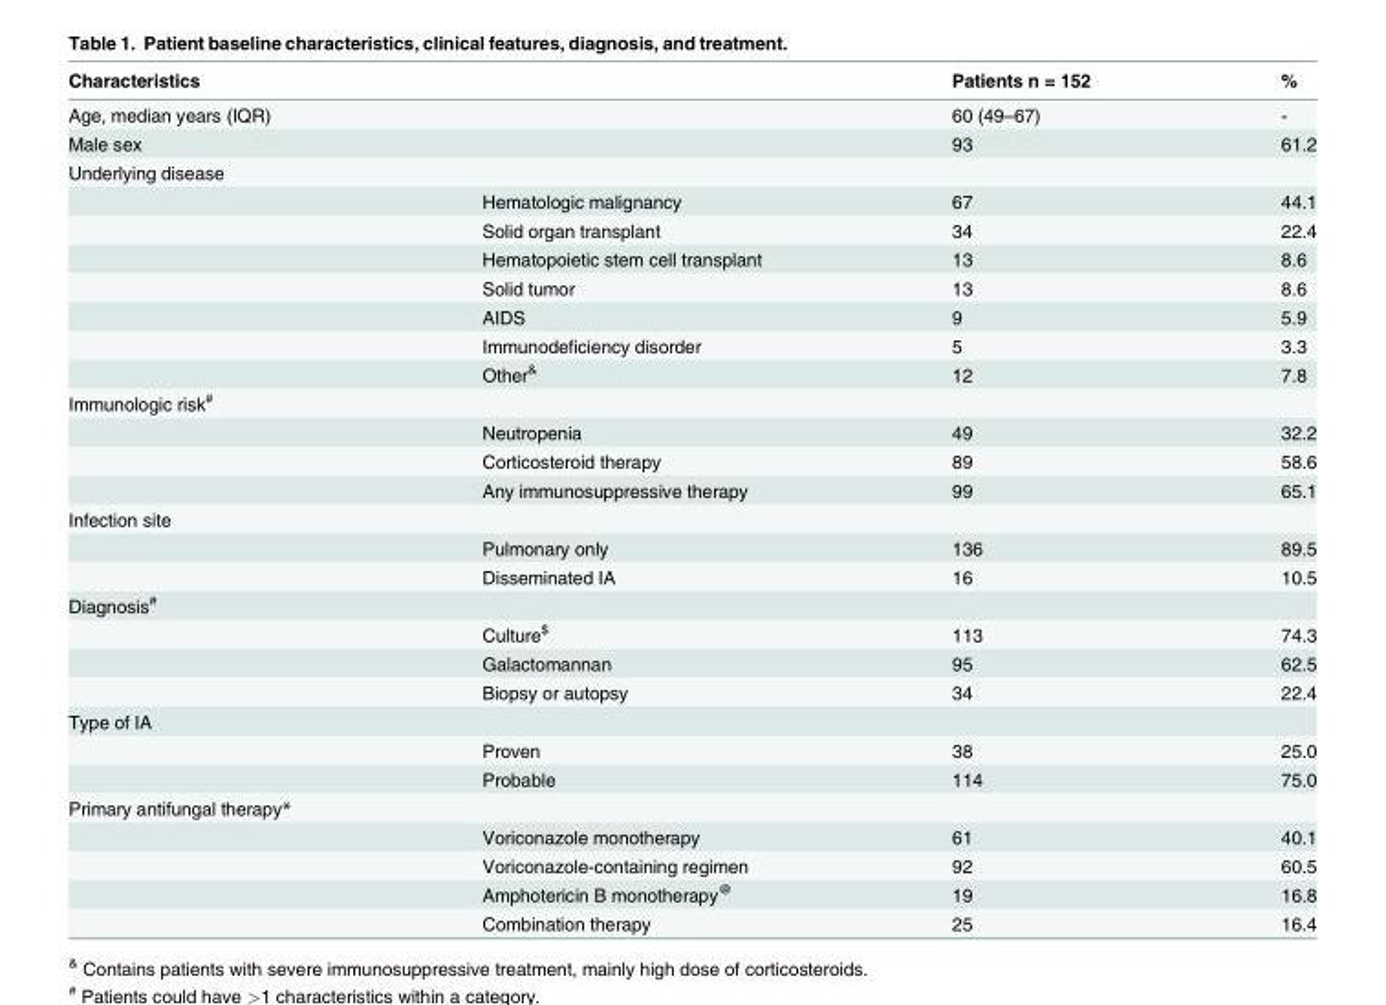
<table><thead><tr><td>Characteristics</td><td></td><td>Patients n = 152</td><td>%</td></tr></thead><tbody><tr><td>Age, median years (IQR)</td><td></td><td>60 (49–67)</td><td>-</td></tr><tr><td>Male sex</td><td></td><td>93</td><td>61.2</td></tr><tr><td colspan="4">Underlying disease</td></tr><tr><td></td><td>Hematologic malignancy</td><td>67</td><td>44.1</td></tr><tr><td></td><td>Solid organ transplant</td><td>34</td><td>22.4</td></tr><tr><td></td><td>Hematopoietic stem cell transplant</td><td>13</td><td>8.6</td></tr><tr><td></td><td>Solid tumor</td><td>13</td><td>8.6</td></tr><tr><td></td><td>AIDS</td><td>9</td><td>5.9</td></tr><tr><td></td><td>Immunodeficiency disorder</td><td>5</td><td>3.3</td></tr><tr><td></td><td>Other<sup>&amp;</sup></td><td>12</td><td>7.8</td></tr><tr><td colspan="4">Immunologic risk<sup>#</sup></td></tr><tr><td></td><td>Neutropenia</td><td>49</td><td>32.2</td></tr><tr><td></td><td>Corticosteroid therapy</td><td>89</td><td>58.6</td></tr><tr><td></td><td>Any immunosuppressive therapy</td><td>99</td><td>65.1</td></tr><tr><td colspan="4">Infection site</td></tr><tr><td></td><td>Pulmonary only</td><td>136</td><td>89.5</td></tr><tr><td></td><td>Disseminated IA</td><td>16</td><td>10.5</td></tr><tr><td colspan="4">Diagnosis<sup>#</sup></td></tr><tr><td></td><td>Culture<sup>$</sup></td><td>113</td><td>74.3</td></tr><tr><td></td><td>Galactomannan</td><td>95</td><td>62.5</td></tr><tr><td></td><td>Biopsy or autopsy</td><td>34</td><td>22.4</td></tr><tr><td colspan="4">Type of IA</td></tr><tr><td></td><td>Proven</td><td>38</td><td>25.0</td></tr><tr><td></td><td>Probable</td><td>114</td><td>75.0</td></tr><tr><td colspan="4">Primary antifungal therapy*</td></tr><tr><td></td><td>Voriconazole monotherapy</td><td>61</td><td>40.1</td></tr><tr><td></td><td>Voriconazole-containing regimen</td><td>92</td><td>60.5</td></tr><tr><td></td><td>Amphotericin B monotherapy<sup>@</sup></td><td>19</td><td>16.8</td></tr><tr><td></td><td>Combination therapy</td><td>25</td><td>16.4</td></tr></tbody></table>